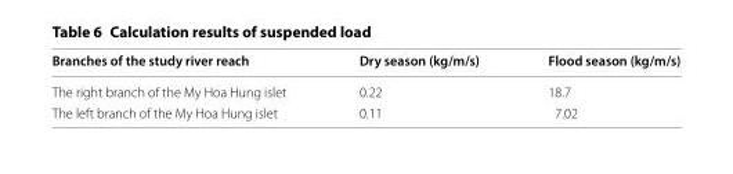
<table><thead><tr><td>Branches of the study river reach</td><td>Dry season (kg/m/s)</td><td>Flood season (kg/m/s)</td></tr></thead><tbody><tr><td>The right branch of the My Hoa Hung islet</td><td>0.22</td><td>18.7</td></tr><tr><td>The left branch of the My Hoa Hung islet</td><td>0.11</td><td>7.02</td></tr></tbody></table>